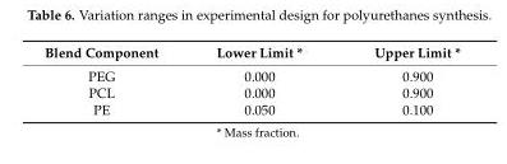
<table><thead><tr><td>Blend Component</td><td>Lower Limit *</td><td>Upper Limit *</td></tr></thead><tbody><tr><td>PEG</td><td>0.000</td><td>0.900</td></tr><tr><td>PCL</td><td>0.000</td><td>0.900</td></tr><tr><td>PE</td><td>0.050</td><td>0.100</td></tr></tbody></table>